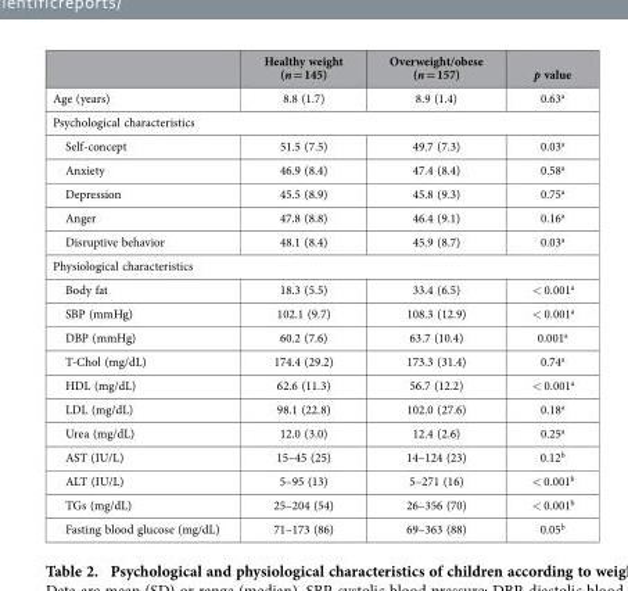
<table><thead><tr><td></td><td>Healthy weight (n = 145)</td><td>Overweight/obese (n = 157)</td><td>p value</td></tr></thead><tbody><tr><td>Age (years)</td><td>8.8 (1.7)</td><td>8.9 (1.4)</td><td>0.63<sup>a</sup></td></tr><tr><td colspan="4">Psychological characteristics</td></tr><tr><td>Self-concept</td><td>51.5 (7.5)</td><td>49.7 (7.3)</td><td>0.03<sup>a</sup></td></tr><tr><td>Anxiety</td><td>46.9 (8.4)</td><td>47.4 (8.4)</td><td>0.58<sup>a</sup></td></tr><tr><td>Depression</td><td>45.5 (8.9)</td><td>45.8 (9.3)</td><td>0.75<sup>a</sup></td></tr><tr><td>Anger</td><td>47.8 (8.8)</td><td>46.4 (9.1)</td><td>0.16<sup>a</sup></td></tr><tr><td>Disruptive behavior</td><td>48.1 (8.4)</td><td>45.9 (8.7)</td><td>0.03<sup>a</sup></td></tr><tr><td colspan="4">Physiological characteristics</td></tr><tr><td>Body fat</td><td>18.3 (5.5)</td><td>33.4 (6.5)</td><td>&lt; 0.001<sup>a</sup></td></tr><tr><td>SBP (mmHg)</td><td>102.1 (9.7)</td><td>108.3 (12.9)</td><td>&lt; 0.001<sup>a</sup></td></tr><tr><td>DBP (mmHg)</td><td>60.2 (7.6)</td><td>63.7 (10.4)</td><td>0.001<sup>a</sup></td></tr><tr><td>T-Chol (mg/dL)</td><td>174.4 (29.2)</td><td>173.3 (31.4)</td><td>0.74<sup>a</sup></td></tr><tr><td>HDL (mg/dL)</td><td>62.6 (11.3)</td><td>56.7 (12.2)</td><td>&lt; 0.001<sup>a</sup></td></tr><tr><td>LDL (mg/dL)</td><td>98.1 (22.8)</td><td>102.0 (27.6)</td><td>0.18<sup>a</sup></td></tr><tr><td>Urea (mg/dL)</td><td>12.0 (3.0)</td><td>12.4 (2.6)</td><td>0.25<sup>a</sup></td></tr><tr><td>AST (IU/L)</td><td>15–45 (25)</td><td>14–124 (23)</td><td>0.12<sup>b</sup></td></tr><tr><td>ALT (IU/L)</td><td>5–95 (13)</td><td>5–271 (16)</td><td>&lt; 0.001<sup>b</sup></td></tr><tr><td>TGs (mg/dL)</td><td>25–204 (54)</td><td>26–356 (70)</td><td>&lt; 0.001<sup>b</sup></td></tr><tr><td>Fasting blood glucose (mg/dL)</td><td>71–173 (86)</td><td>69–363 (88)</td><td>0.05<sup>b</sup></td></tr></tbody></table>